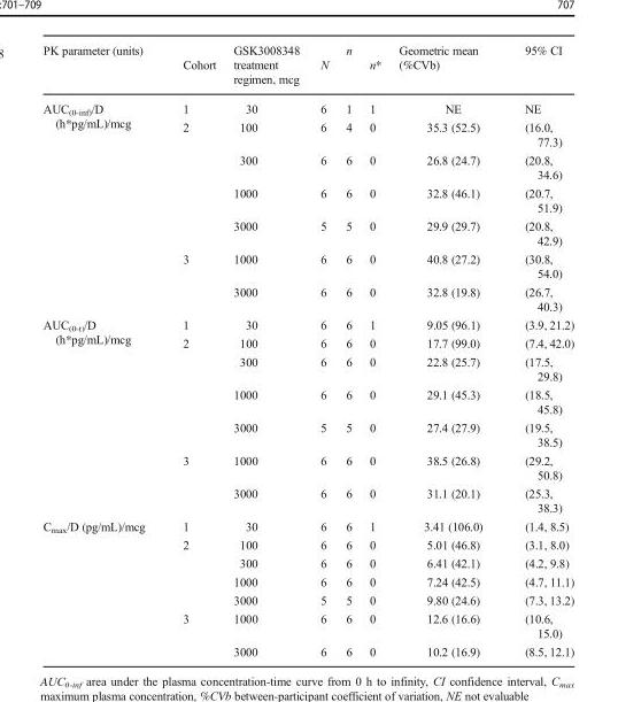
<table><thead><tr><td>PK parameter (units)</td><td>Cohort</td><td>GSK3008348 treatment regimen, mcg</td><td>N</td><td>n</td><td>n*</td><td>Geometric mean (%CVb)</td><td>95% CI</td></tr></thead><tbody><tr><td rowspan="7">AUC<sub>(0-inf)</sub>/D (h*pg/mL)/mcg</td><td>1</td><td>30</td><td>6</td><td>1</td><td>1</td><td>NE</td><td>NE</td></tr><tr><td rowspan="4">2</td><td>100</td><td>6</td><td>4</td><td>0</td><td>35.3 (52.5)</td><td>(16.0, 77.3)</td></tr><tr><td>300</td><td>6</td><td>6</td><td>0</td><td>26.8 (24.7)</td><td>(20.8, 34.6)</td></tr><tr><td>1000</td><td>6</td><td>6</td><td>0</td><td>32.8 (46.1)</td><td>(20.7, 51.9)</td></tr><tr><td>3000</td><td>5</td><td>5</td><td>0</td><td>29.9 (29.7)</td><td>(20.8, 42.9)</td></tr><tr><td rowspan="2">3</td><td>1000</td><td>6</td><td>6</td><td>0</td><td>40.8 (27.2)</td><td>(30.8, 54.0)</td></tr><tr><td>3000</td><td>6</td><td>6</td><td>0</td><td>32.8 (19.8)</td><td>(26.7, 40.3)</td></tr><tr><td rowspan="7">AUC<sub>(0-t)</sub>/D (h*pg/mL)/mcg</td><td>1</td><td>30</td><td>6</td><td>6</td><td>1</td><td>9.05 (96.1)</td><td>(3.9, 21.2)</td></tr><tr><td rowspan="4">2</td><td>100</td><td>6</td><td>6</td><td>0</td><td>17.7 (99.0)</td><td>(7.4, 42.0)</td></tr><tr><td>300</td><td>6</td><td>6</td><td>0</td><td>22.8 (25.7)</td><td>(17.5, 29.8)</td></tr><tr><td>1000</td><td>6</td><td>6</td><td>0</td><td>29.1 (45.3)</td><td>(18.5, 45.8)</td></tr><tr><td>3000</td><td>5</td><td>5</td><td>0</td><td>27.4 (27.9)</td><td>(19.5, 38.5)</td></tr><tr><td rowspan="2">3</td><td>1000</td><td>6</td><td>6</td><td>0</td><td>38.5 (26.8)</td><td>(29.2, 50.8)</td></tr><tr><td>3000</td><td>6</td><td>6</td><td>0</td><td>31.1 (20.1)</td><td>(25.3, 38.3)</td></tr><tr><td rowspan="7">C<sub>max</sub>/D (pg/mL)/mcg</td><td>1</td><td>30</td><td>6</td><td>6</td><td>1</td><td>3.41 (106.0)</td><td>(1.4, 8.5)</td></tr><tr><td rowspan="4">2</td><td>100</td><td>6</td><td>6</td><td>0</td><td>5.01 (46.8)</td><td>(3.1, 8.0)</td></tr><tr><td>300</td><td>6</td><td>6</td><td>0</td><td>6.41 (42.1)</td><td>(4.2, 9.8)</td></tr><tr><td>1000</td><td>6</td><td>6</td><td>0</td><td>7.24 (42.5)</td><td>(4.7, 11.1)</td></tr><tr><td>3000</td><td>5</td><td>5</td><td>0</td><td>9.80 (24.6)</td><td>(7.3, 13.2)</td></tr><tr><td rowspan="2">3</td><td>1000</td><td>6</td><td>6</td><td>0</td><td>12.6 (16.6)</td><td>(10.6, 15.0)</td></tr><tr><td>3000</td><td>6</td><td>6</td><td>0</td><td>10.2 (16.9)</td><td>(8.5, 12.1)</td></tr></tbody></table>